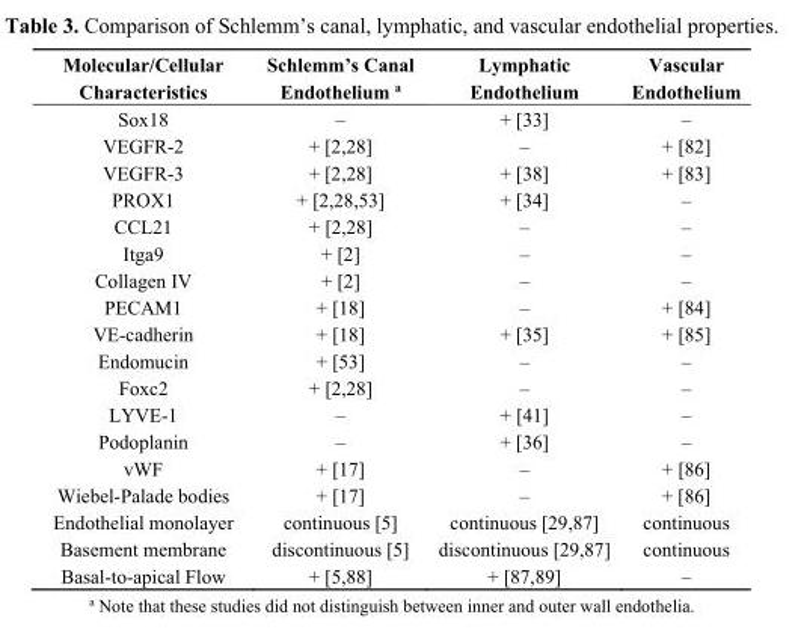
<table><thead><tr><td>Molecular/Cellular Characteristics</td><td>Schlemm’s Canal Endothelium <sup>a</sup></td><td>Lymphatic Endothelium</td><td>Vascular Endothelium</td></tr></thead><tbody><tr><td>Sox18</td><td>–</td><td>+ [33]</td><td>–</td></tr><tr><td>VEGFR-2</td><td>+ [2,28]</td><td>–</td><td>+ [82]</td></tr><tr><td>VEGFR-3</td><td>+ [2,28]</td><td>+ [38]</td><td>+ [83]</td></tr><tr><td>PROX1</td><td>+ [2,28,53]</td><td>+ [34]</td><td>–</td></tr><tr><td>CCL21</td><td>+ [2,28]</td><td>–</td><td>–</td></tr><tr><td>Itga9</td><td>+ [2]</td><td>–</td><td>–</td></tr><tr><td>Collagen IV</td><td>+ [2]</td><td>–</td><td>–</td></tr><tr><td>PECAM1</td><td>+ [18]</td><td>–</td><td>+ [84]</td></tr><tr><td>VE-cadherin</td><td>+ [18]</td><td>+ [35]</td><td>+ [85]</td></tr><tr><td>Endomucin</td><td>+ [53]</td><td>–</td><td>–</td></tr><tr><td>Foxc2</td><td>+ [2,28]</td><td>–</td><td>–</td></tr><tr><td>LYVE-1</td><td>–</td><td>+ [41]</td><td>–</td></tr><tr><td>Podoplanin</td><td>–</td><td>+ [36]</td><td>–</td></tr><tr><td>vWF</td><td>+ [17]</td><td>–</td><td>+ [86]</td></tr><tr><td>Wiebel-Palade bodies</td><td>+ [17]</td><td>–</td><td>+ [86]</td></tr><tr><td>Endothelial monolayer</td><td>continuous [5]</td><td>continuous [29,87]</td><td>continuous</td></tr><tr><td>Basement membrane</td><td>discontinuous [5]</td><td>discontinuous [29,87]</td><td>continuous</td></tr><tr><td>Basal-to-apical Flow</td><td>+ [5,88]</td><td>+ [87,89]</td><td>–</td></tr></tbody></table>